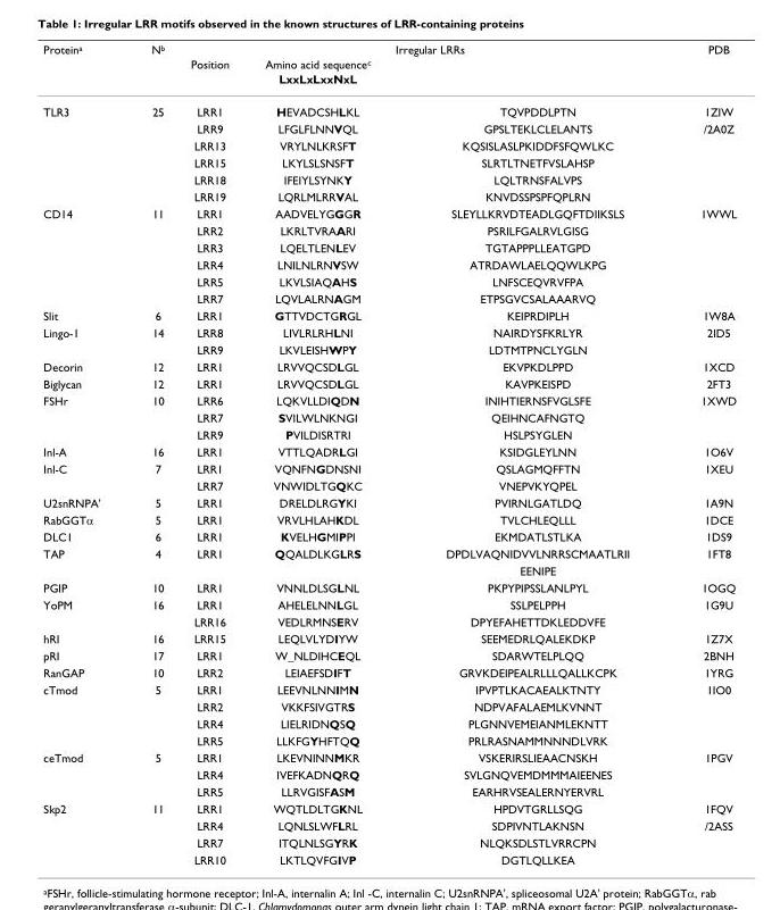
<table><thead><tr><td rowspan="3">Protein<sup>a</sup></td><td rowspan="3">N<sup>b</sup></td><td colspan="3">Irregular LRRs</td><td rowspan="3">PDB</td></tr><tr><td rowspan="2">Position</td><td rowspan="2">Amino acid sequence<sup>c</sup> LxxLxLxxNxL</td><td rowspan="2"></td></tr><tr></tr></thead><tbody><tr><td rowspan="6">TLR3</td><td>25</td><td>LRR1</td><td>HEVADCSHLKL</td><td>TQVPDDLPTN</td><td>1ZIW</td></tr><tr><td></td><td>LRR9</td><td>LFGLFLNNVQL</td><td>GPSLTEKLCLELANTS</td><td>/2A0Z</td></tr><tr><td></td><td>LRR13</td><td>VRYLNLKRSFT</td><td>KQSISLASLPKIDDFSFQWLKC</td><td></td></tr><tr><td></td><td>LRR15</td><td>LKYLSLSNSFT</td><td>SLRTLTNETFVSLAHSP</td><td></td></tr><tr><td></td><td>LRR18</td><td>IFEIYLSYNKY</td><td>LQLTRNSFALVPS</td><td></td></tr><tr><td></td><td>LRR19</td><td>LQRLMLRRVAL</td><td>KNVDSSPSPFQPLRN</td><td></td></tr><tr><td rowspan="6">CD14</td><td>11</td><td>LRR1</td><td>AADVELYGGGR</td><td>SLEYLLKRVDTEADLGQFTDIIKSLS</td><td>1WWL</td></tr><tr><td></td><td>LRR2</td><td>LKRLTVRAARI</td><td>PSRILFGALRVLGISG</td><td></td></tr><tr><td></td><td>LRR3</td><td>LQELTLENLEV</td><td>TGTAPPPLLEATGPD</td><td></td></tr><tr><td></td><td>LRR4</td><td>LNILNLRNVSW</td><td>ATRDAWLAELQQWLKPG</td><td></td></tr><tr><td></td><td>LRR5</td><td>LKVLSIAQAHS</td><td>LNFSCEQVRVFPA</td><td></td></tr><tr><td></td><td>LRR7</td><td>LQVLALRNAGM</td><td>ETPSGVCSALAAARVQ</td><td></td></tr><tr><td>Slit</td><td>6</td><td>LRR1</td><td>GTTVDCTGRGL</td><td>KEIPRDIPLH</td><td>1W8A</td></tr><tr><td rowspan="2">Lingo-1</td><td>14</td><td>LRR8</td><td>LIVLRLRHLNI</td><td>NAIRDYSFKRLYR</td><td>2ID5</td></tr><tr><td></td><td>LRR9</td><td>LKVLEISHWPY</td><td>LDTMTPNCLYGLN</td><td></td></tr><tr><td>Decorin</td><td>12</td><td>LRR1</td><td>LRVVQCSDLGL</td><td>EKVPKDLPPD</td><td>1XCD</td></tr><tr><td>Biglycan</td><td>12</td><td>LRR1</td><td>LRVVQCSDLGL</td><td>KAVPKEISPD</td><td>2FT3</td></tr><tr><td rowspan="3">FSHr</td><td>10</td><td>LRR6</td><td>LQKVLLDIQDN</td><td>INIHTIERNSFVGLSFE</td><td>1XWD</td></tr><tr><td></td><td>LRR7</td><td>SVILWLNKNGI</td><td>QEIHNCAFNGTQ</td><td></td></tr><tr><td></td><td>LRR9</td><td>PVILDISRTRI</td><td>HSLPSYGLEN</td><td></td></tr><tr><td>Inl-A</td><td>16</td><td>LRR1</td><td>VTTLQADRLGI</td><td>KSIDGLEYLNN</td><td>1O6V</td></tr><tr><td rowspan="2">Inl-C</td><td>7</td><td>LRR1</td><td>VQNFNGDNSNI</td><td>QSLAGMQFFTN</td><td>1XEU</td></tr><tr><td></td><td>LRR7</td><td>VNWIDLTGQKC</td><td>VNEPVKYQPEL</td><td></td></tr><tr><td>U2snRNPA&#x27;</td><td>5</td><td>LRR1</td><td>DRELDLRGYKI</td><td>PVIRNLGATLDQ</td><td>1A9N</td></tr><tr><td>RabGGTα</td><td>5</td><td>LRR1</td><td>VRVLHLAHKDL</td><td>TVLCHLEQLLL</td><td>1DCE</td></tr><tr><td>DLC1</td><td>6</td><td>LRR1</td><td>KVELHGMIPPI</td><td>EKMDATLSTLKA</td><td>1DS9</td></tr><tr><td rowspan="2">TAP</td><td>4</td><td>LRR1</td><td>QQALDLKGLRS</td><td>DPDLVAQNIDVVLNRRSCMAATLRII</td><td>1FT8</td></tr><tr><td></td><td></td><td></td><td>EENIPE</td><td></td></tr><tr><td>PGIP</td><td>10</td><td>LRR1</td><td>VNNLDLSGLNL</td><td>PKPYPIPSSLANLPYL</td><td>1OGQ</td></tr><tr><td rowspan="2">YoPM</td><td>16</td><td>LRR1</td><td>AHELELNNLGL</td><td>SSLPELPPH</td><td>1G9U</td></tr><tr><td></td><td>LRR16</td><td>VEDLRMNSERV</td><td>DPYEFAHETTDKLEDDVFE</td><td></td></tr><tr><td>hRI</td><td>16</td><td>LRR15</td><td>LEQLVLYDIYW</td><td>SEEMEDRLQALEKDKP</td><td>1Z7X</td></tr><tr><td>pRI</td><td>17</td><td>LRR1</td><td>W_NLDIHCEQL</td><td>SDARWTELPLQQ</td><td>2BNH</td></tr><tr><td>RanGAP</td><td>10</td><td>LRR2</td><td>LEIAEFSDIFT</td><td>GRVKDEIPEALRLLLQALLKCPK</td><td>1YRG</td></tr><tr><td rowspan="4">cTmod</td><td>5</td><td>LRR1</td><td>LEEVNLNNIMN</td><td>IPVPTLKACAEALKTNTY</td><td>1IO0</td></tr><tr><td></td><td>LRR2</td><td>VKKFSIVGTRS</td><td>NDPVAFALAEMLKVNNT</td><td></td></tr><tr><td></td><td>LRR4</td><td>LIELRIDNQSQ</td><td>PLGNNVEMEIANMLEKNTT</td><td></td></tr><tr><td></td><td>LRR5</td><td>LLKFGYHFTQQ</td><td>PRLRASNAMMNNNDLVRK</td><td></td></tr><tr><td rowspan="3">ceTmod</td><td>5</td><td>LRR1</td><td>LKEVNINNMKR</td><td>VSKERIRSLIEAACNSKH</td><td>1PGV</td></tr><tr><td></td><td>LRR4</td><td>IVEFKADNQRQ</td><td>SVLGNQVEMDMMMAIEENES</td><td></td></tr><tr><td></td><td>LRR5</td><td>LLRVGISFASM</td><td>EARHRVSEALERNYERVRL</td><td></td></tr><tr><td rowspan="4">Skp2</td><td>11</td><td>LRR1</td><td>WQTLDLTGKNL</td><td>HPDVTGRLLSQG</td><td>1FQV</td></tr><tr><td></td><td>LRR4</td><td>LQNLSLWFLRL</td><td>SDPIVNTLAKNSN</td><td>/2ASS</td></tr><tr><td></td><td>LRR7</td><td>ITQLNLSGYRK</td><td>NLQKSDLSTLVRRCPN</td><td></td></tr><tr><td></td><td>LRR10</td><td>LKTLQVFGIVP</td><td>DGTLQLLKEA</td><td></td></tr></tbody></table>